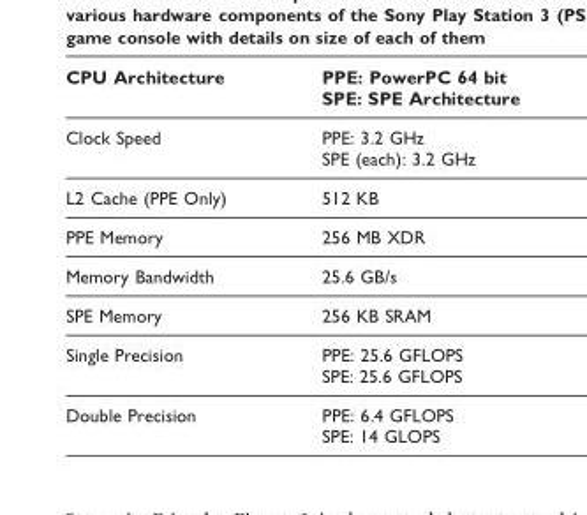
<table><thead><tr><td>CPU Architecture</td><td>PPE: PowerPC 64 bit SPE: SPE Architecture</td></tr></thead><tbody><tr><td>Clock Speed</td><td>PPE: 3.2 GHz SPE (each): 3.2 GHz</td></tr><tr><td>L2 Cache (PPE Only)</td><td>512 KB</td></tr><tr><td>PPE Memory</td><td>256 MB XDR</td></tr><tr><td>Memory Bandwidth</td><td>25.6 GB/s</td></tr><tr><td>SPE Memory</td><td>256 KB SRAM</td></tr><tr><td>Single Precision</td><td>PPE: 25.6 GFLOPS SPE: 25.6 GFLOPS</td></tr><tr><td>Double Precision</td><td>PPE: 6.4 GFLOPS SPE: 14 GLOPS</td></tr></tbody></table>